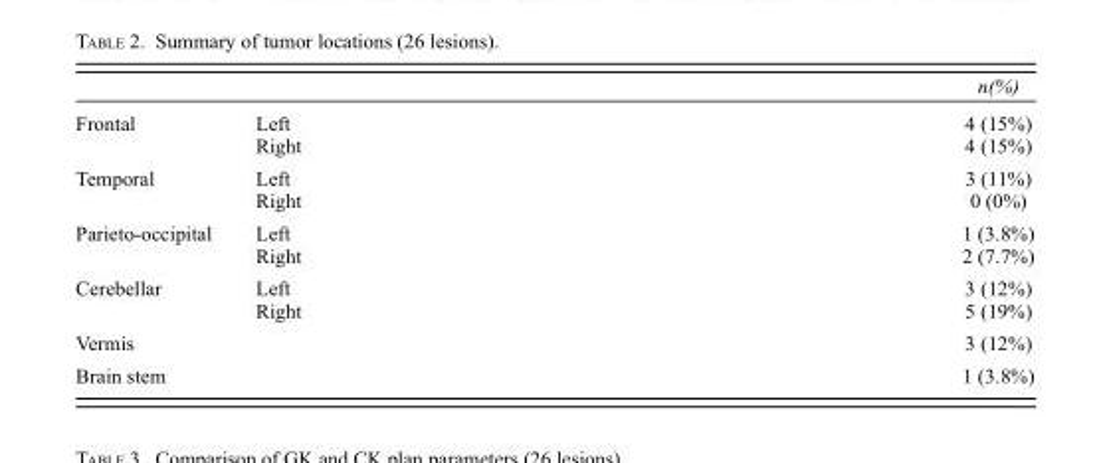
<table><thead><tr><td></td><td></td><td>n(%)</td></tr></thead><tbody><tr><td rowspan="2">Frontal</td><td>Left</td><td>4 (15%)</td></tr><tr><td>Right</td><td>4 (15%)</td></tr><tr><td rowspan="2">Temporal</td><td>Left</td><td>3 (11%)</td></tr><tr><td>Right</td><td>0 (0%)</td></tr><tr><td rowspan="2">Parieto-occipital</td><td>Left</td><td>1 (3.8%)</td></tr><tr><td>Right</td><td>2 (7.7%)</td></tr><tr><td rowspan="2">Cerebellar</td><td>Left</td><td>3 (12%)</td></tr><tr><td>Right</td><td>5 (19%)</td></tr><tr><td>Vermis</td><td></td><td>3 (12%)</td></tr><tr><td>Brain stem</td><td></td><td>1 (3.8%)</td></tr></tbody></table>